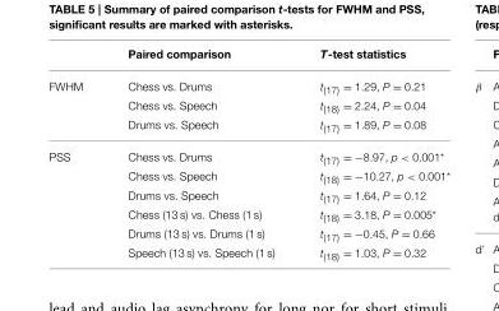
<table><thead><tr><td></td><td>Paired comparison</td><td>T-test statistics</td></tr></thead><tbody><tr><td rowspan="3">FWHM</td><td>Chess vs. Drums</td><td>t<sub>(17)</sub> = 1.29, P = 0.21</td></tr><tr><td>Chess vs. Speech</td><td>t<sub>(18)</sub> = 2.24, P = 0.04</td></tr><tr><td>Drums vs. Speech</td><td>t<sub>(17)</sub> = 1.89, P = 0.08</td></tr><tr><td rowspan="6">PSS</td><td>Chess vs. Drums</td><td>t<sub>(17)</sub> = −8.97, p &lt; 0.001*</td></tr><tr><td>Chess vs. Speech</td><td>t<sub>(18)</sub> = −10.27, p &lt; 0.001*</td></tr><tr><td>Drums vs. Speech</td><td>t<sub>(17)</sub> = 1.64, P = 0.12</td></tr><tr><td>Chess (13 s) vs. Chess (1 s)</td><td>t<sub>(18)</sub> = 3.18, P = 0.005*</td></tr><tr><td>Drums (13 s) vs. Drums (1 s)</td><td>t<sub>(17)</sub> = −0.45, P = 0.66</td></tr><tr><td>Speech (13 s) vs. Speech (1 s)</td><td>t<sub>(18)</sub> = 1.03, P = 0.32</td></tr></tbody></table>